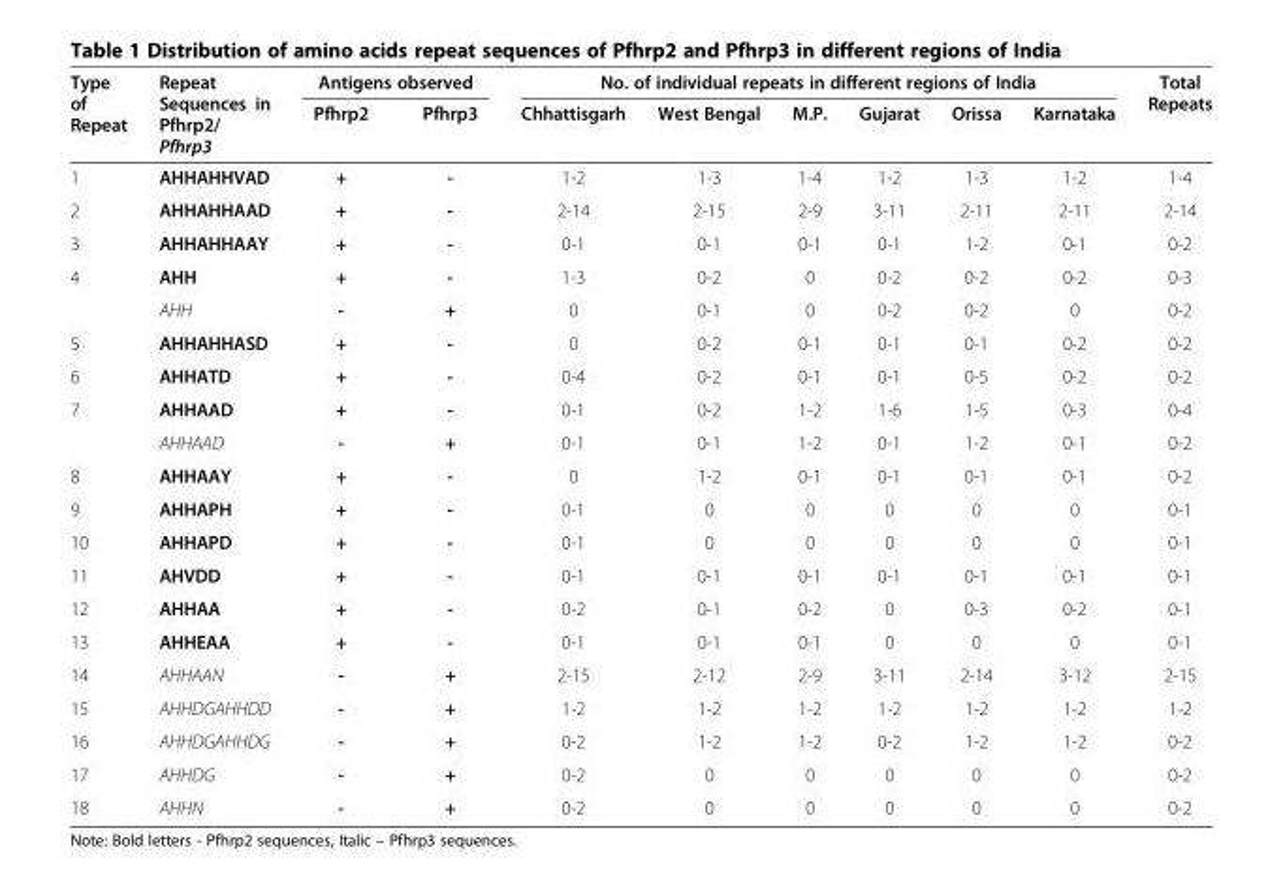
<table><thead><tr><td rowspan="2">Type of Repeat</td><td rowspan="2">Repeat Sequences in Pfhrp2/ Pfhrp3</td><td colspan="2">Antigens observed</td><td colspan="6">No. of individual repeats in different regions of India</td><td rowspan="2">Total Repeats</td></tr><tr><td>Pfhrp2</td><td>Pfhrp3</td><td>Chhattisgarh</td><td>West Bengal</td><td>M.P.</td><td>Gujarat</td><td>Orissa</td><td>Karnataka</td></tr></thead><tbody><tr><td>1</td><td>AHHAHHVAD</td><td>+</td><td>-</td><td>1-2</td><td>1-3</td><td>1-4</td><td>1-2</td><td>1-3</td><td>1-2</td><td>1-4</td></tr><tr><td>2</td><td>AHHAHHAAD</td><td>+</td><td>-</td><td>2-14</td><td>2-15</td><td>2-9</td><td>3-11</td><td>2-11</td><td>2-11</td><td>2-14</td></tr><tr><td>3</td><td>AHHAHHAAY</td><td>+</td><td>-</td><td>0-1</td><td>0-1</td><td>0-1</td><td>0-1</td><td>1-2</td><td>0-1</td><td>0-2</td></tr><tr><td rowspan="2">4</td><td>AHH</td><td>+</td><td>-</td><td>1-3</td><td>0-2</td><td>0</td><td>0-2</td><td>0-2</td><td>0-2</td><td>0-3</td></tr><tr><td>AHH</td><td>-</td><td>+</td><td>0</td><td>0-1</td><td>0</td><td>0-2</td><td>0-2</td><td>0</td><td>0-2</td></tr><tr><td>5</td><td>AHHAHHASD</td><td>+</td><td>-</td><td>0</td><td>0-2</td><td>0-1</td><td>0-1</td><td>0-1</td><td>0-2</td><td>0-2</td></tr><tr><td>6</td><td>AHHATD</td><td>+</td><td>-</td><td>0-4</td><td>0-2</td><td>0-1</td><td>0-1</td><td>0-5</td><td>0-2</td><td>0-2</td></tr><tr><td rowspan="2">7</td><td>AHHAAD</td><td>+</td><td>-</td><td>0-1</td><td>0-2</td><td>1-2</td><td>1-6</td><td>1-5</td><td>0-3</td><td>0-4</td></tr><tr><td>AHHAAD</td><td>-</td><td>+</td><td>0-1</td><td>0-1</td><td>1-2</td><td>0-1</td><td>1-2</td><td>0-1</td><td>0-2</td></tr><tr><td>8</td><td>AHHAAY</td><td>+</td><td>-</td><td>0</td><td>1-2</td><td>0-1</td><td>0-1</td><td>0-1</td><td>0-1</td><td>0-2</td></tr><tr><td>9</td><td>AHHAPH</td><td>+</td><td>-</td><td>0-1</td><td>0</td><td>0</td><td>0</td><td>0</td><td>0</td><td>0-1</td></tr><tr><td>10</td><td>AHHAPD</td><td>+</td><td>-</td><td>0-1</td><td>0</td><td>0</td><td>0</td><td>0</td><td>0</td><td>0-1</td></tr><tr><td>11</td><td>AHVDD</td><td>+</td><td>-</td><td>0-1</td><td>0-1</td><td>0-1</td><td>0-1</td><td>0-1</td><td>0-1</td><td>0-1</td></tr><tr><td>12</td><td>AHHAA</td><td>+</td><td>-</td><td>0-2</td><td>0-1</td><td>0-2</td><td>0</td><td>0-3</td><td>0-2</td><td>0-1</td></tr><tr><td>13</td><td>AHHEAA</td><td>+</td><td>-</td><td>0-1</td><td>0-1</td><td>0-1</td><td>0</td><td>0</td><td>0</td><td>0-1</td></tr><tr><td>14</td><td>AHHAAN</td><td>-</td><td>+</td><td>2-15</td><td>2-12</td><td>2-9</td><td>3-11</td><td>2-14</td><td>3-12</td><td>2-15</td></tr><tr><td>15</td><td>AHHDGAHHDD</td><td>-</td><td>+</td><td>1-2</td><td>1-2</td><td>1-2</td><td>1-2</td><td>1-2</td><td>1-2</td><td>1-2</td></tr><tr><td>16</td><td>AHHDGAHHDG</td><td>-</td><td>+</td><td>0-2</td><td>1-2</td><td>1-2</td><td>0-2</td><td>1-2</td><td>1-2</td><td>0-2</td></tr><tr><td>17</td><td>AHHDG</td><td>-</td><td>+</td><td>0-2</td><td>0</td><td>0</td><td>0</td><td>0</td><td>0</td><td>0-2</td></tr><tr><td>18</td><td>AHHN</td><td>-</td><td>+</td><td>0-2</td><td>0</td><td>0</td><td>0</td><td>0</td><td>0</td><td>0-2</td></tr></tbody></table>